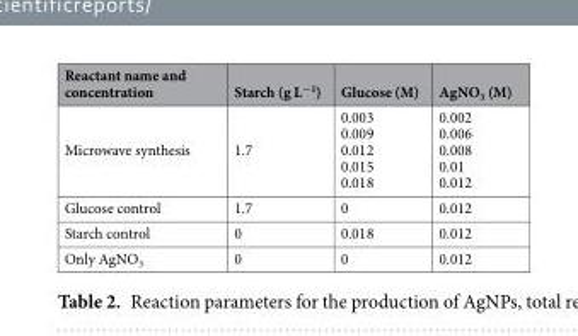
<table><thead><tr><td>Reactant name and concentration</td><td>Starch (g L<sup>−1</sup>)</td><td>Glucose (M)</td><td>AgNO<sub>3</sub> (M)</td></tr></thead><tbody><tr><td>Microwave synthesis</td><td>1.7</td><td>0.003 0.009 0.012 0.015 0.018</td><td>0.002 0.006 0.008 0.01 0.012</td></tr><tr><td>Glucose control</td><td>1.7</td><td>0</td><td>0.012</td></tr><tr><td>Starch control</td><td>0</td><td>0.018</td><td>0.012</td></tr><tr><td>Only AgNO<sub>3</sub></td><td>0</td><td>0</td><td>0.012</td></tr></tbody></table>